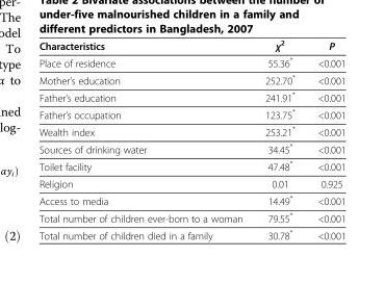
<table><thead><tr><td>Characteristics</td><td>χ<sup>2</sup></td><td>P</td></tr></thead><tbody><tr><td>Place of residence</td><td>55.36*</td><td>&lt;0.001</td></tr><tr><td>Mother’s education</td><td>252.70*</td><td>&lt;0.001</td></tr><tr><td>Father’s education</td><td>241.91*</td><td>&lt;0.001</td></tr><tr><td>Father’s occupation</td><td>123.75*</td><td>&lt;0.001</td></tr><tr><td>Wealth index</td><td>253.21*</td><td>&lt;0.001</td></tr><tr><td>Sources of drinking water</td><td>34.45*</td><td>&lt;0.001</td></tr><tr><td>Toilet facility</td><td>47.48*</td><td>&lt;0.001</td></tr><tr><td>Religion</td><td>0.01</td><td>0.925</td></tr><tr><td>Access to media</td><td>14.49*</td><td>&lt;0.001</td></tr><tr><td>Total number of children ever-born to a woman</td><td>79.55*</td><td>&lt;0.001</td></tr><tr><td>Total number of children died in a family</td><td>30.78*</td><td>&lt;0.001</td></tr></tbody></table>